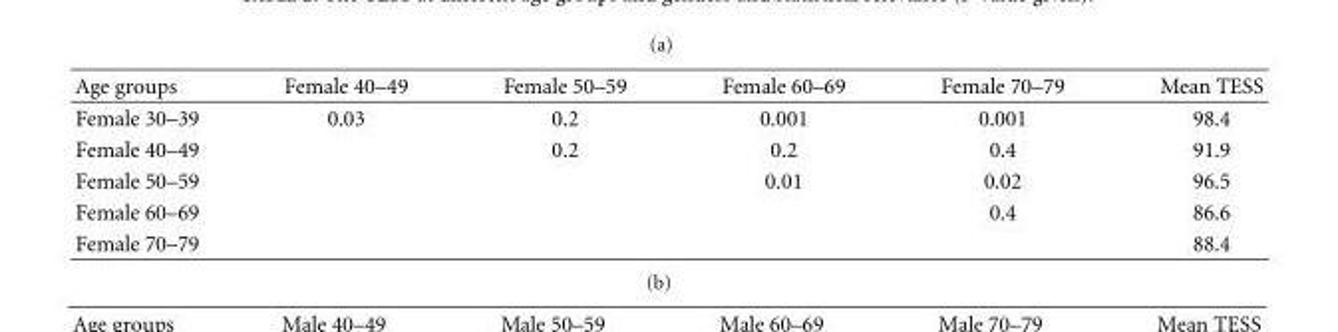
<table><thead><tr><td>Age groups</td><td>Female 40–49</td><td>Female 50–59</td><td>Female 60–69</td><td>Female 70–79</td><td>Mean TESS</td></tr></thead><tbody><tr><td>Female 30–39</td><td>0.03</td><td>0.2</td><td>0.001</td><td>0.001</td><td>98.4</td></tr><tr><td>Female 40–49</td><td></td><td>0.2</td><td>0.2</td><td>0.4</td><td>91.9</td></tr><tr><td>Female 50–59</td><td></td><td></td><td>0.01</td><td>0.02</td><td>96.5</td></tr><tr><td>Female 60–69</td><td></td><td></td><td></td><td>0.4</td><td>86.6</td></tr><tr><td>Female 70–79</td><td></td><td></td><td></td><td></td><td>88.4</td></tr></tbody></table>